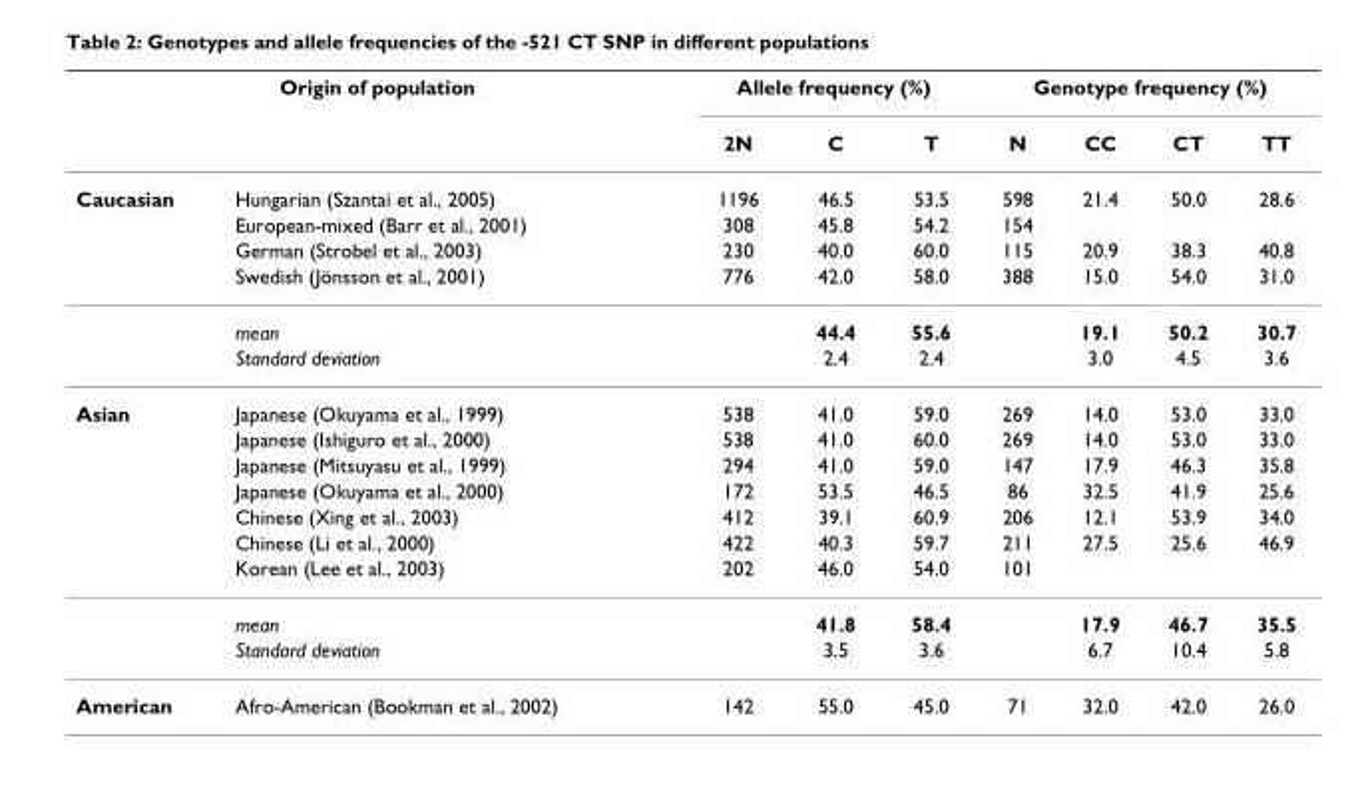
<table><thead><tr><td colspan="2">Origin of population</td><td colspan="3">Allele frequency (%)</td><td colspan="4">Genotype frequency (%)</td></tr><tr><td></td><td></td><td>2N</td><td>C</td><td>T</td><td>N</td><td>CC</td><td>CT</td><td>TT</td></tr></thead><tbody><tr><td rowspan="6">Caucasian</td><td>Hungarian (Szantai et al., 2005)</td><td>1196</td><td>46.5</td><td>53.5</td><td>598</td><td>21.4</td><td>50.0</td><td>28.6</td></tr><tr><td>European-mixed (Barr et al., 2001)</td><td>308</td><td>45.8</td><td>54.2</td><td>154</td><td></td><td></td><td></td></tr><tr><td>German (Strobel et al., 2003)</td><td>230</td><td>40.0</td><td>60.0</td><td>115</td><td>20.9</td><td>38.3</td><td>40.8</td></tr><tr><td>Swedish (Jönsson et al., 2001)</td><td>776</td><td>42.0</td><td>58.0</td><td>388</td><td>15.0</td><td>54.0</td><td>31.0</td></tr><tr><td>mean</td><td></td><td>44.4</td><td>55.6</td><td></td><td>19.1</td><td>50.2</td><td>30.7</td></tr><tr><td>Standard deviation</td><td></td><td>2.4</td><td>2.4</td><td></td><td>3.0</td><td>4.5</td><td>3.6</td></tr><tr><td rowspan="9">Asian</td><td>Japanese (Okuyama et al., 1999)</td><td>538</td><td>41.0</td><td>59.0</td><td>269</td><td>14.0</td><td>53.0</td><td>33.0</td></tr><tr><td>Japanese (Ishiguro et al., 2000)</td><td>538</td><td>41.0</td><td>60.0</td><td>269</td><td>14.0</td><td>53.0</td><td>33.0</td></tr><tr><td>Japanese (Mitsuyasu et al., 1999)</td><td>294</td><td>41.0</td><td>59.0</td><td>147</td><td>17.9</td><td>46.3</td><td>35.8</td></tr><tr><td>Japanese (Okuyama et al., 2000)</td><td>172</td><td>53.5</td><td>46.5</td><td>86</td><td>32.5</td><td>41.9</td><td>25.6</td></tr><tr><td>Chinese (Xing et al., 2003)</td><td>412</td><td>39.1</td><td>60.9</td><td>206</td><td>12.1</td><td>53.9</td><td>34.0</td></tr><tr><td>Chinese (Li et al., 2000)</td><td>422</td><td>40.3</td><td>59.7</td><td>211</td><td>27.5</td><td>25.6</td><td>46.9</td></tr><tr><td>Korean (Lee et al., 2003)</td><td>202</td><td>46.0</td><td>54.0</td><td>101</td><td></td><td></td><td></td></tr><tr><td>mean</td><td></td><td>41.8</td><td>58.4</td><td></td><td>17.9</td><td>46.7</td><td>35.5</td></tr><tr><td>Standard deviation</td><td></td><td>3.5</td><td>3.6</td><td></td><td>6.7</td><td>10.4</td><td>5.8</td></tr><tr><td>American</td><td>Afro-American (Bookman et al., 2002)</td><td>142</td><td>55.0</td><td>45.0</td><td>71</td><td>32.0</td><td>42.0</td><td>26.0</td></tr></tbody></table>